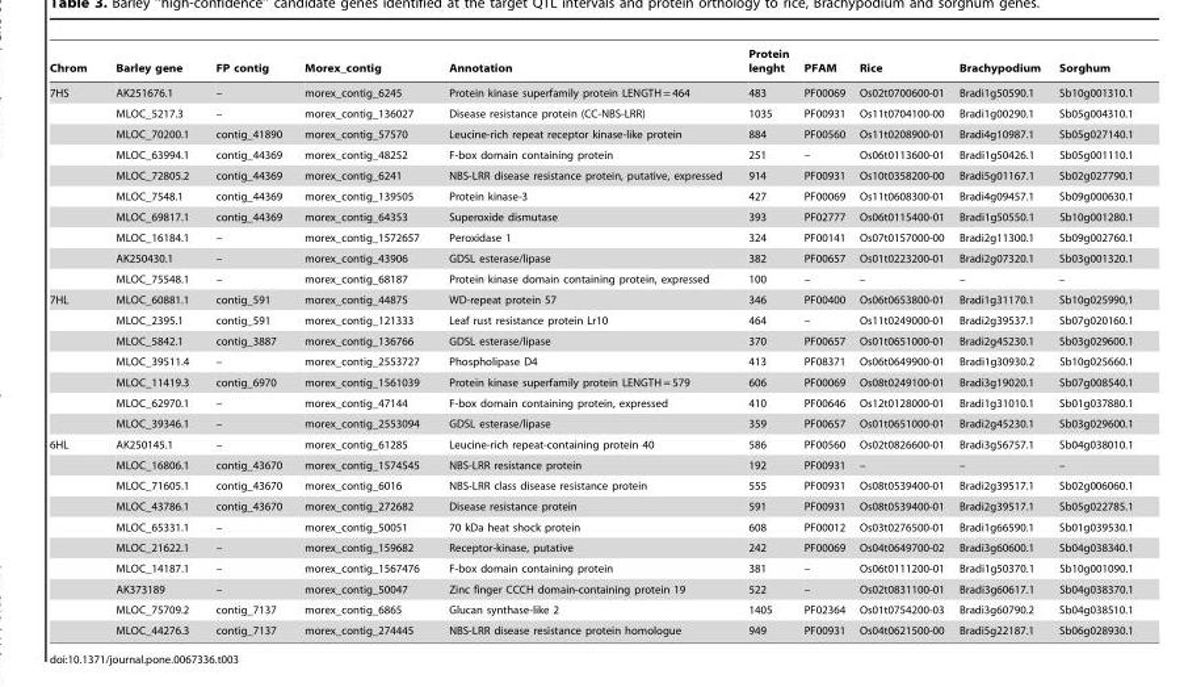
<table><thead><tr><td>Chrom</td><td>Barley gene</td><td>FP contig</td><td>Morex_contig</td><td>Annotation</td><td>Protein lenght</td><td>PFAM</td><td>Rice</td><td>Brachypodium</td><td>Sorghum</td></tr></thead><tbody><tr><td rowspan="10">7HS</td><td>AK251676.1</td><td>–</td><td>morex_contig_6245</td><td>Protein kinase superfamily protein LENGTH = 464</td><td>483</td><td>PF00069</td><td>Os02t0700600-01</td><td>Bradi1g50590.1</td><td>Sb10g001310.1</td></tr><tr><td>MLOC_5217.3</td><td>–</td><td>morex_contig_136027</td><td>Disease resistance protein (CC-NBS-LRR)</td><td>1035</td><td>PF00931</td><td>Os11t0704100-00</td><td>Bradi1g00290.1</td><td>Sb05g004310.1</td></tr><tr><td>MLOC_70200.1</td><td>contig_41890</td><td>morex_contig_57570</td><td>Leucine-rich repeat receptor kinase-like protein</td><td>884</td><td>PF00560</td><td>Os11t0208900-01</td><td>Bradi4g10987.1</td><td>Sb05g027140.1</td></tr><tr><td>MLOC_63994.1</td><td>contig_44369</td><td>morex_contig_48252</td><td>F-box domain containing protein</td><td>251</td><td>–</td><td>Os06t0113600-01</td><td>Bradi1g50426.1</td><td>Sb05g001110.1</td></tr><tr><td>MLOC_72805.2</td><td>contig_44369</td><td>morex_contig_6241</td><td>NBS-LRR disease resistance protein, putative, expressed</td><td>914</td><td>PF00931</td><td>Os10t0358200-00</td><td>Bradi5g01167.1</td><td>Sb02g027790.1</td></tr><tr><td>MLOC_7548.1</td><td>contig_44369</td><td>morex_contig_139505</td><td>Protein kinase-3</td><td>427</td><td>PF00069</td><td>Os11t0608300-01</td><td>Bradi4g09457.1</td><td>Sb09g000630.1</td></tr><tr><td>MLOC_69817.1</td><td>contig_44369</td><td>morex_contig_64353</td><td>Superoxide dismutase</td><td>393</td><td>PF02777</td><td>Os06t0115400-01</td><td>Bradi1g50550.1</td><td>Sb10g001280.1</td></tr><tr><td>MLOC_16184.1</td><td>–</td><td>morex_contig_1572657</td><td>Peroxidase 1</td><td>324</td><td>PF00141</td><td>Os07t0157000-00</td><td>Bradi2g11300.1</td><td>Sb09g002760.1</td></tr><tr><td>AK250430.1</td><td>–</td><td>morex_contig_43906</td><td>GDSL esterase/lipase</td><td>382</td><td>PF00657</td><td>Os01t0223200-01</td><td>Bradi2g07320.1</td><td>Sb03g001320.1</td></tr><tr><td>MLOC_75548.1</td><td>–</td><td>morex_contig_68187</td><td>Protein kinase domain containing protein, expressed</td><td>100</td><td>–</td><td>–</td><td>–</td><td>–</td></tr><tr><td rowspan="7">7HL</td><td>MLOC_60881.1</td><td>contig_591</td><td>morex_contig_44875</td><td>WD-repeat protein 57</td><td>346</td><td>PF00400</td><td>Os06t0653800-01</td><td>Bradi1g31170.1</td><td>Sb10g025990,1</td></tr><tr><td>MLOC_2395.1</td><td>contig_591</td><td>morex_contig_121333</td><td>Leaf rust resistance protein Lr10</td><td>464</td><td>–</td><td>Os11t0249000-01</td><td>Bradi2g39537.1</td><td>Sb07g020160.1</td></tr><tr><td>MLOC_5842.1</td><td>contig_3887</td><td>morex_contig_136766</td><td>GDSL esterase/lipase</td><td>370</td><td>PF00657</td><td>Os01t0651000-01</td><td>Bradi2g45230.1</td><td>Sb03g029600.1</td></tr><tr><td>MLOC_39511.4</td><td>–</td><td>morex_contig_2553727</td><td>Phospholipase D4</td><td>413</td><td>PF08371</td><td>Os06t0649900-01</td><td>Bradi1g30930.2</td><td>Sb10g025660.1</td></tr><tr><td>MLOC_11419.3</td><td>contig_6970</td><td>morex_contig_1561039</td><td>Protein kinase superfamily protein LENGTH = 579</td><td>606</td><td>PF00069</td><td>Os08t0249100-01</td><td>Bradi3g19020.1</td><td>Sb07g008540.1</td></tr><tr><td>MLOC_62970.1</td><td>–</td><td>morex_contig_47144</td><td>F-box domain containing protein, expressed</td><td>410</td><td>PF00646</td><td>Os12t0128000-01</td><td>Bradi1g31010.1</td><td>Sb01g037880.1</td></tr><tr><td>MLOC_39346.1</td><td>–</td><td>morex_contig_2553094</td><td>GDSL esterase/lipase</td><td>359</td><td>PF00657</td><td>Os01t0651000-01</td><td>Bradi2g45230.1</td><td>Sb03g029600.1</td></tr><tr><td rowspan="10">6HL</td><td>AK250145.1</td><td>–</td><td>morex_contig_61285</td><td>Leucine-rich repeat-containing protein 40</td><td>586</td><td>PF00560</td><td>Os02t0826600-01</td><td>Bradi3g56757.1</td><td>Sb04g038010.1</td></tr><tr><td>MLOC_16806.1</td><td>contig_43670</td><td>morex_contig_1574545</td><td>NBS-LRR resistance protein</td><td>192</td><td>PF00931</td><td>–</td><td>–</td><td>–</td></tr><tr><td>MLOC_71605.1</td><td>contig_43670</td><td>morex_contig_6016</td><td>NBS-LRR class disease resistance protein</td><td>555</td><td>PF00931</td><td>Os08t0539400-01</td><td>Bradi2g39517.1</td><td>Sb02g006060.1</td></tr><tr><td>MLOC_43786.1</td><td>contig_43670</td><td>morex_contig_272682</td><td>Disease resistance protein</td><td>591</td><td>PF00931</td><td>Os08t0539400-01</td><td>Bradi2g39517.1</td><td>Sb05g022785.1</td></tr><tr><td>MLOC_65331.1</td><td>–</td><td>morex_contig_50051</td><td>70 kDa heat shock protein</td><td>608</td><td>PF00012</td><td>Os03t0276500-01</td><td>Bradi1g66590.1</td><td>Sb01g039530.1</td></tr><tr><td>MLOC_21622.1</td><td>–</td><td>morex_contig_159682</td><td>Receptor-kinase, putative</td><td>242</td><td>PF00069</td><td>Os04t0649700-02</td><td>Bradi3g60600.1</td><td>Sb04g038340.1</td></tr><tr><td>MLOC_14187.1</td><td>–</td><td>morex_contig_1567476</td><td>F-box domain containing protein</td><td>381</td><td>–</td><td>Os06t0111200-01</td><td>Bradi1g50370.1</td><td>Sb10g001090.1</td></tr><tr><td>AK373189</td><td>–</td><td>morex_contig_50047</td><td>Zinc finger CCCH domain-containing protein 19</td><td>522</td><td>–</td><td>Os02t0831100-01</td><td>Bradi3g60617.1</td><td>Sb04g038370.1</td></tr><tr><td>MLOC_75709.2</td><td>contig_7137</td><td>morex_contig_6865</td><td>Glucan synthase-like 2</td><td>1405</td><td>PF02364</td><td>Os01t0754200-03</td><td>Bradi3g60790.2</td><td>Sb04g038510.1</td></tr><tr><td>MLOC_44276.3</td><td>contig_7137</td><td>morex_contig_274445</td><td>NBS-LRR disease resistance protein homologue</td><td>949</td><td>PF00931</td><td>Os04t0621500-00</td><td>Bradi5g22187.1</td><td>Sb06g028930.1</td></tr></tbody></table>